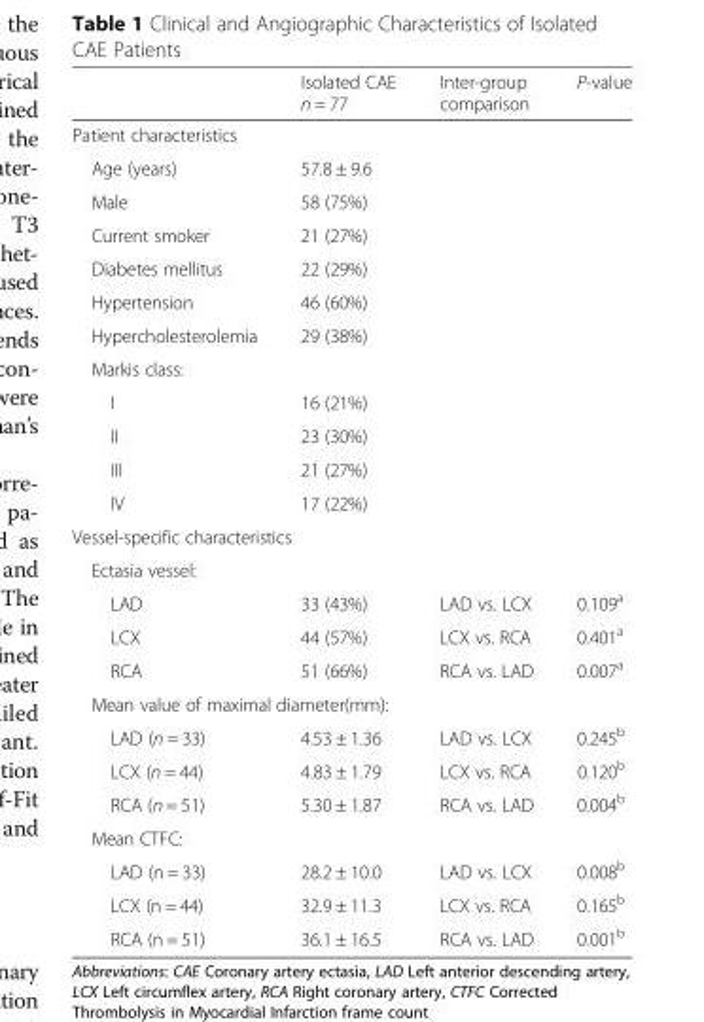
<table><thead><tr><td></td><td>Isolated CAE n = 77</td><td>Inter-group comparison</td><td>P-value</td></tr></thead><tbody><tr><td colspan="4">Patient characteristics</td></tr><tr><td>Age (years)</td><td>57.8 ± 9.6</td><td></td><td></td></tr><tr><td>Male</td><td>58 (75%)</td><td></td><td></td></tr><tr><td>Current smoker</td><td>21 (27%)</td><td></td><td></td></tr><tr><td>Diabetes mellitus</td><td>22 (29%)</td><td></td><td></td></tr><tr><td>Hypertension</td><td>46 (60%)</td><td></td><td></td></tr><tr><td>Hypercholesterolemia</td><td>29 (38%)</td><td></td><td></td></tr><tr><td colspan="4">Markis class:</td></tr><tr><td>I</td><td>16 (21%)</td><td></td><td></td></tr><tr><td>II</td><td>23 (30%)</td><td></td><td></td></tr><tr><td>III</td><td>21 (27%)</td><td></td><td></td></tr><tr><td>IV</td><td>17 (22%)</td><td></td><td></td></tr><tr><td colspan="4">Vessel-specific characteristics</td></tr><tr><td colspan="4">Ectasia vessel:</td></tr><tr><td>LAD</td><td>33 (43%)</td><td>LAD vs. LCX</td><td>0.109<sup>a</sup></td></tr><tr><td>LCX</td><td>44 (57%)</td><td>LCX vs. RCA</td><td>0.401<sup>a</sup></td></tr><tr><td>RCA</td><td>51 (66%)</td><td>RCA vs. LAD</td><td>0.007<sup>a</sup></td></tr><tr><td colspan="4">Mean value of maximal diameter(mm):</td></tr><tr><td>LAD (n = 33)</td><td>4.53 ± 1.36</td><td>LAD vs. LCX</td><td>0.245<sup>b</sup></td></tr><tr><td>LCX (n = 44)</td><td>4.83 ± 1.79</td><td>LCX vs. RCA</td><td>0.120<sup>b</sup></td></tr><tr><td>RCA (n = 51)</td><td>5.30 ± 1.87</td><td>RCA vs. LAD</td><td>0.004<sup>b</sup></td></tr><tr><td colspan="4">Mean CTFC:</td></tr><tr><td>LAD (n = 33)</td><td>28.2 ± 10.0</td><td>LAD vs. LCX</td><td>0.008<sup>b</sup></td></tr><tr><td>LCX (n = 44)</td><td>32.9 ± 11.3</td><td>LCX vs. RCA</td><td>0.165<sup>b</sup></td></tr><tr><td>RCA (n = 51)</td><td>36.1 ± 16.5</td><td>RCA vs. LAD</td><td>0.001<sup>b</sup></td></tr></tbody></table>